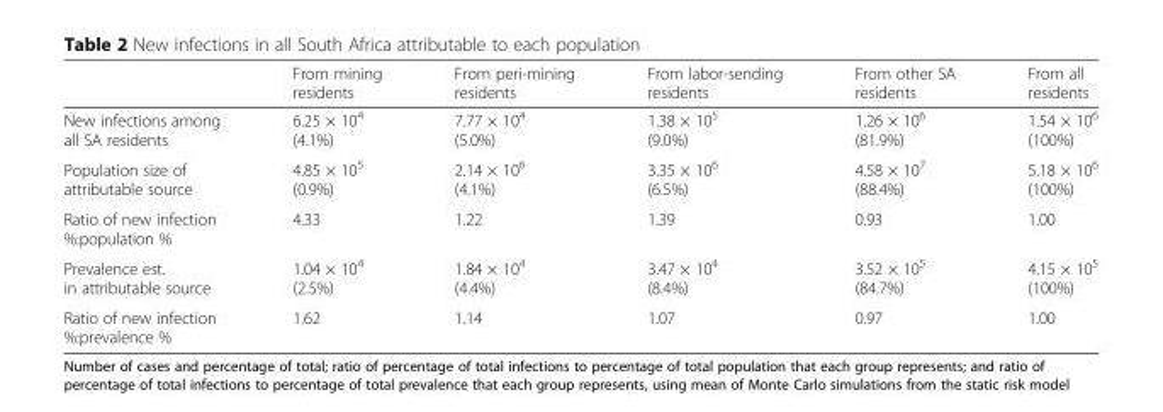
<table><thead><tr><td></td><td>From mining residents</td><td>From peri-mining residents</td><td>From labor-sending residents</td><td>From other SA residents</td><td>From all residents</td></tr></thead><tbody><tr><td>New infections among all SA residents</td><td>6.25 × 10<sup>4</sup> (4.1%)</td><td>7.77 × 10<sup>4</sup> (5.0%)</td><td>1.38 × 10<sup>5</sup> (9.0%)</td><td>1.26 × 10<sup>6</sup> (81.9%)</td><td>1.54 × 10<sup>6</sup> (100%)</td></tr><tr><td>Population size of attributable source</td><td>4.85 × 10<sup>5</sup> (0.9%)</td><td>2.14 × 10<sup>6</sup> (4.1%)</td><td>3.35 × 10<sup>6</sup> (6.5%)</td><td>4.58 × 10<sup>7</sup> (88.4%)</td><td>5.18 × 10<sup>6</sup> (100%)</td></tr><tr><td>Ratio of new infection %:population %</td><td>4.33</td><td>1.22</td><td>1.39</td><td>0.93</td><td>1.00</td></tr><tr><td>Prevalence est. in attributable source</td><td>1.04 × 10<sup>4</sup> (2.5%)</td><td>1.84 × 10<sup>4</sup> (4.4%)</td><td>3.47 × 10<sup>4</sup> (8.4%)</td><td>3.52 × 10<sup>5</sup> (84.7%)</td><td>4.15 × 10<sup>5</sup> (100%)</td></tr><tr><td>Ratio of new infection %:prevalence %</td><td>1.62</td><td>1.14</td><td>1.07</td><td>0.97</td><td>1.00</td></tr></tbody></table>